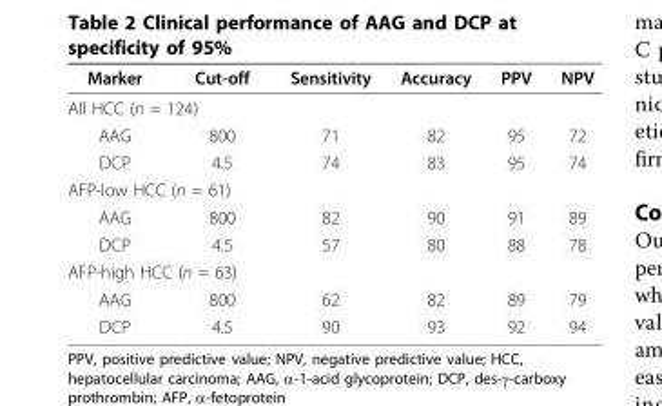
<table><thead><tr><td>Marker</td><td>Cut-off</td><td>Sensitivity</td><td>Accuracy</td><td>PPV</td><td>NPV</td></tr></thead><tbody><tr><td colspan="6">All HCC (n = 124)</td></tr><tr><td>AAG</td><td>800</td><td>71</td><td>82</td><td>95</td><td>72</td></tr><tr><td>DCP</td><td>4.5</td><td>74</td><td>83</td><td>95</td><td>74</td></tr><tr><td colspan="6">AFP-low HCC (n = 61)</td></tr><tr><td>AAG</td><td>800</td><td>82</td><td>90</td><td>91</td><td>89</td></tr><tr><td>DCP</td><td>4.5</td><td>57</td><td>80</td><td>88</td><td>78</td></tr><tr><td colspan="6">AFP-high HCC (n = 63)</td></tr><tr><td>AAG</td><td>800</td><td>62</td><td>82</td><td>89</td><td>79</td></tr><tr><td>DCP</td><td>4.5</td><td>90</td><td>93</td><td>92</td><td>94</td></tr></tbody></table>